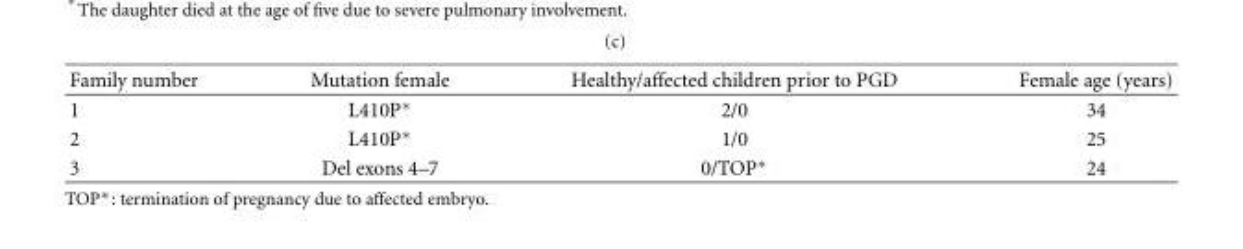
<table><thead><tr><td>Family number</td><td>Mutation female</td><td>Healthy/affected children prior to PGD</td><td>Female age (years)</td></tr></thead><tbody><tr><td>1</td><td>L410P∗</td><td>2/0</td><td>34</td></tr><tr><td>2</td><td>L410P∗</td><td>1/0</td><td>25</td></tr><tr><td>3</td><td>Del exons 4–7</td><td>0/TOP∗</td><td>24</td></tr></tbody></table>